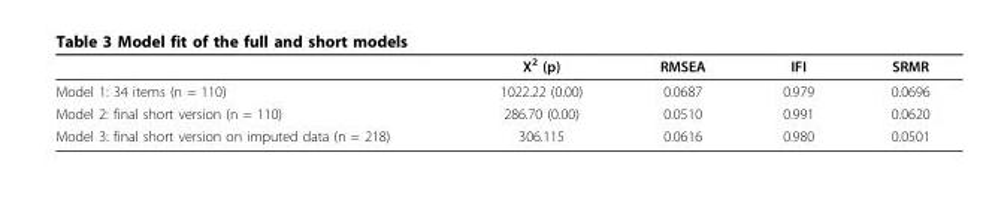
<table><thead><tr><td></td><td>Χ<sup>2</sup> (p)</td><td>RMSEA</td><td>IFI</td><td>SRMR</td></tr></thead><tbody><tr><td>Model 1: 34 items (n = 110)</td><td>1022.22 (0.00)</td><td>0.0687</td><td>0.979</td><td>0.0696</td></tr><tr><td>Model 2: final short version (n = 110)</td><td>286.70 (0.00)</td><td>0.0510</td><td>0.991</td><td>0.0620</td></tr><tr><td>Model 3: final short version on imputed data (n = 218)</td><td>306.115</td><td>0.0616</td><td>0.980</td><td>0.0501</td></tr></tbody></table>